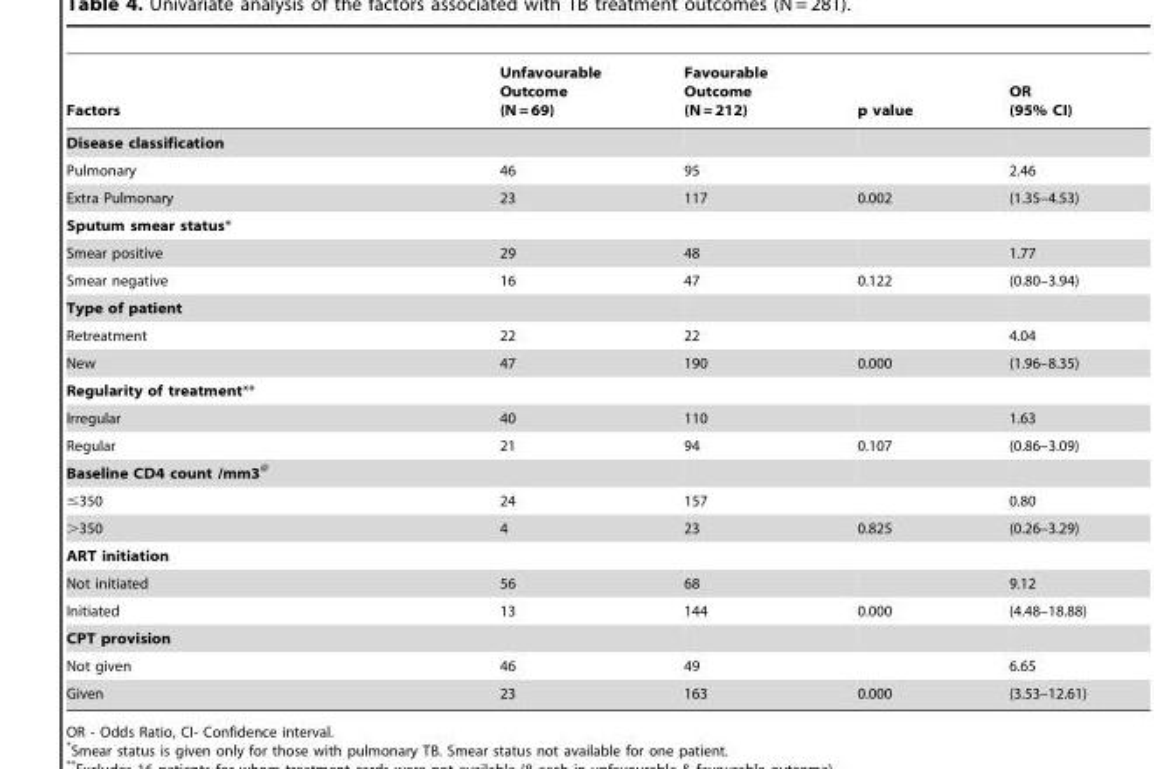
<table><thead><tr><td>Factors</td><td>Unfavourable Outcome (N = 69)</td><td>Favourable Outcome (N = 212)</td><td>p value</td><td>OR (95% CI)</td></tr></thead><tbody><tr><td colspan="5">Disease classification</td></tr><tr><td>Pulmonary</td><td>46</td><td>95</td><td></td><td>2.46</td></tr><tr><td>Extra Pulmonary</td><td>23</td><td>117</td><td>0.002</td><td>(1.35–4.53)</td></tr><tr><td colspan="5">Sputum smear status*</td></tr><tr><td>Smear positive</td><td>29</td><td>48</td><td></td><td>1.77</td></tr><tr><td>Smear negative</td><td>16</td><td>47</td><td>0.122</td><td>(0.80–3.94)</td></tr><tr><td colspan="5">Type of patient</td></tr><tr><td>Retreatment</td><td>22</td><td>22</td><td></td><td>4.04</td></tr><tr><td>New</td><td>47</td><td>190</td><td>0.000</td><td>(1.96–8.35)</td></tr><tr><td colspan="5">Regularity of treatment**</td></tr><tr><td>Irregular</td><td>40</td><td>110</td><td></td><td>1.63</td></tr><tr><td>Regular</td><td>21</td><td>94</td><td>0.107</td><td>(0.86–3.09)</td></tr><tr><td colspan="5">Baseline CD4 count /mm3@</td></tr><tr><td>≤350</td><td>24</td><td>157</td><td></td><td>0.80</td></tr><tr><td>&gt;350</td><td>4</td><td>23</td><td>0.825</td><td>(0.26–3.29)</td></tr><tr><td colspan="5">ART initiation</td></tr><tr><td>Not initiated</td><td>56</td><td>68</td><td></td><td>9.12</td></tr><tr><td>Initiated</td><td>13</td><td>144</td><td>0.000</td><td>(4.48–18.88)</td></tr><tr><td colspan="5">CPT provision</td></tr><tr><td>Not given</td><td>46</td><td>49</td><td></td><td>6.65</td></tr><tr><td>Given</td><td>23</td><td>163</td><td>0.000</td><td>(3.53–12.61)</td></tr></tbody></table>